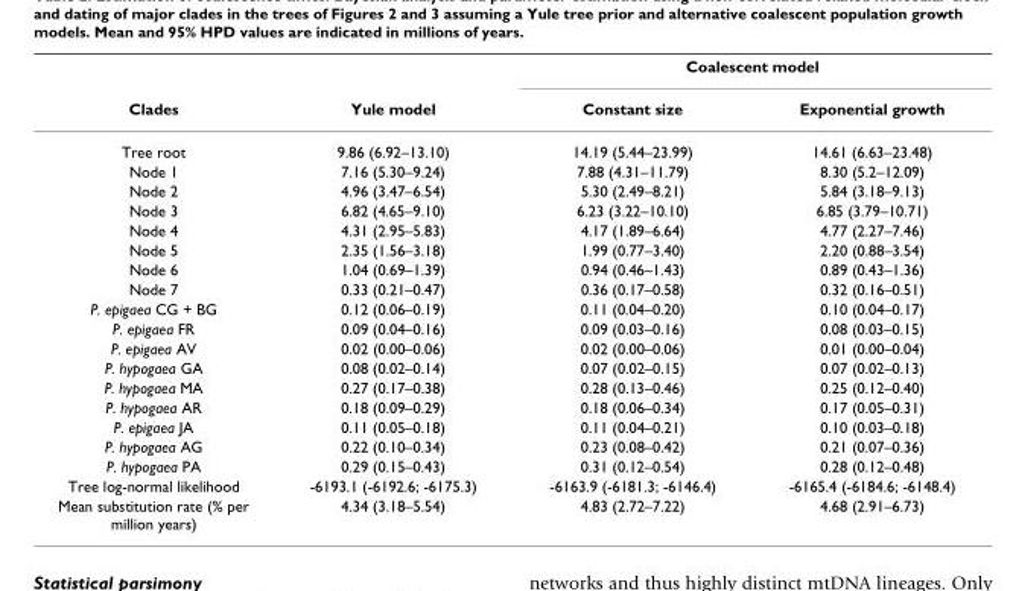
<table><thead><tr><td rowspan="2">Clades</td><td rowspan="2">Yule model</td><td colspan="2">Coalescent model</td></tr><tr><td>Constant size</td><td>Exponential growth</td></tr></thead><tbody><tr><td>Tree root</td><td>9.86 (6.92–13.10)</td><td>14.19 (5.44–23.99)</td><td>14.61 (6.63–23.48)</td></tr><tr><td>Node 1</td><td>7.16 (5.30–9.24)</td><td>7.88 (4.31–11.79)</td><td>8.30 (5.2–12.09)</td></tr><tr><td>Node 2</td><td>4.96 (3.47–6.54)</td><td>5.30 (2.49–8.21)</td><td>5.84 (3.18–9.13)</td></tr><tr><td>Node 3</td><td>6.82 (4.65–9.10)</td><td>6.23 (3.22–10.10)</td><td>6.85 (3.79–10.71)</td></tr><tr><td>Node 4</td><td>4.31 (2.95–5.83)</td><td>4.17 (1.89–6.64)</td><td>4.77 (2.27–7.46)</td></tr><tr><td>Node 5</td><td>2.35 (1.56–3.18)</td><td>1.99 (0.77–3.40)</td><td>2.20 (0.88–3.54)</td></tr><tr><td>Node 6</td><td>1.04 (0.69–1.39)</td><td>0.94 (0.46–1.43)</td><td>0.89 (0.43–1.36)</td></tr><tr><td>Node 7</td><td>0.33 (0.21–0.47)</td><td>0.36 (0.17–0.58)</td><td>0.32 (0.16–0.51)</td></tr><tr><td>P. epigaea CG + BG</td><td>0.12 (0.06–0.19)</td><td>0.11 (0.04–0.20)</td><td>0.10 (0.04–0.17)</td></tr><tr><td>P. epigaea FR</td><td>0.09 (0.04–0.16)</td><td>0.09 (0.03–0.16)</td><td>0.08 (0.03–0.15)</td></tr><tr><td>P. epigaea AV</td><td>0.02 (0.00–0.06)</td><td>0.02 (0.00–0.06)</td><td>0.01 (0.00–0.04)</td></tr><tr><td>P. hypogaea GA</td><td>0.08 (0.02–0.14)</td><td>0.07 (0.02–0.15)</td><td>0.07 (0.02–0.13)</td></tr><tr><td>P. hypogaea MA</td><td>0.27 (0.17–0.38)</td><td>0.28 (0.13–0.46)</td><td>0.25 (0.12–0.40)</td></tr><tr><td>P. hypogaea AR</td><td>0.18 (0.09–0.29)</td><td>0.18 (0.06–0.34)</td><td>0.17 (0.05–0.31)</td></tr><tr><td>P. epigaea JA</td><td>0.11 (0.05–0.18)</td><td>0.11 (0.04–0.21)</td><td>0.10 (0.03–0.18)</td></tr><tr><td>P. hypogaea AG</td><td>0.22 (0.10–0.34)</td><td>0.23 (0.08–0.42)</td><td>0.21 (0.07–0.36)</td></tr><tr><td>P. hypogaea PA</td><td>0.29 (0.15–0.43)</td><td>0.31 (0.12–0.54)</td><td>0.28 (0.12–0.48)</td></tr><tr><td>Tree log-normal likelihood</td><td>-6193.1 (-6192.6; -6175.3)</td><td>-6163.9 (-6181.3; -6146.4)</td><td>-6165.4 (-6184.6; -6148.4)</td></tr><tr><td>Mean substitution rate (% per million years)</td><td>4.34 (3.18–5.54)</td><td>4.83 (2.72–7.22)</td><td>4.68 (2.91–6.73)</td></tr></tbody></table>